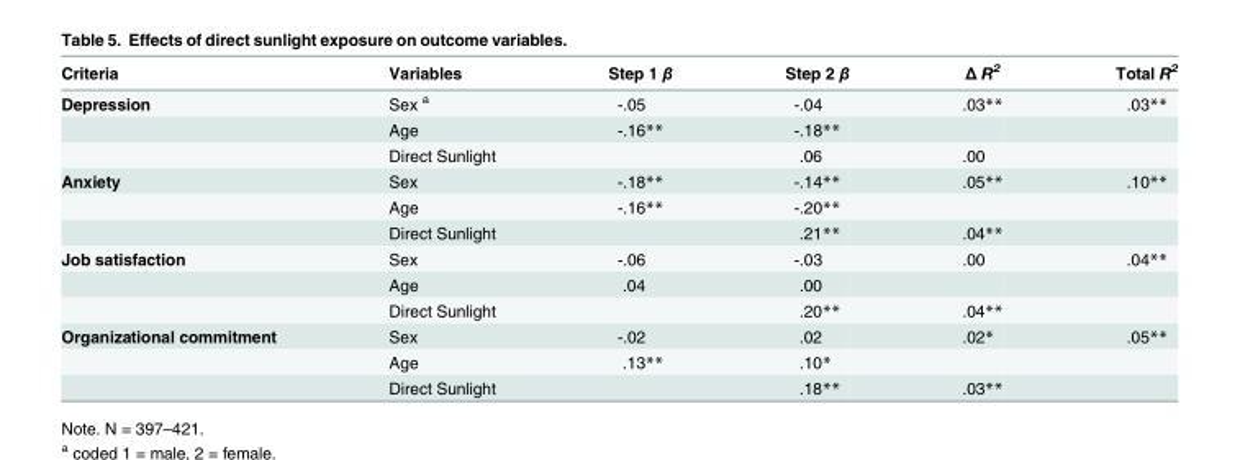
<table><thead><tr><td>Criteria</td><td>Variables</td><td>Step 1 β</td><td>Step 2 β</td><td>Δ R<sup>2</sup></td><td>Total R<sup>2</sup></td></tr></thead><tbody><tr><td rowspan="3">Depression</td><td>Sex <sup>a</sup></td><td>-.05</td><td>-.04</td><td>.03**</td><td>.03**</td></tr><tr><td>Age</td><td>-.16**</td><td>-.18**</td><td></td><td></td></tr><tr><td>Direct Sunlight</td><td></td><td>.06</td><td>.00</td><td></td></tr><tr><td rowspan="3">Anxiety</td><td>Sex</td><td>-.18**</td><td>-.14**</td><td>.05**</td><td>.10**</td></tr><tr><td>Age</td><td>-.16**</td><td>-.20**</td><td></td><td></td></tr><tr><td>Direct Sunlight</td><td></td><td>.21**</td><td>.04**</td><td></td></tr><tr><td rowspan="3">Job satisfaction</td><td>Sex</td><td>-.06</td><td>-.03</td><td>.00</td><td>.04**</td></tr><tr><td>Age</td><td>.04</td><td>.00</td><td></td><td></td></tr><tr><td>Direct Sunlight</td><td></td><td>.20**</td><td>.04**</td><td></td></tr><tr><td rowspan="3">Organizational commitment</td><td>Sex</td><td>-.02</td><td>.02</td><td>.02*</td><td>.05**</td></tr><tr><td>Age</td><td>.13**</td><td>.10*</td><td></td><td></td></tr><tr><td>Direct Sunlight</td><td></td><td>.18**</td><td>.03**</td><td></td></tr></tbody></table>